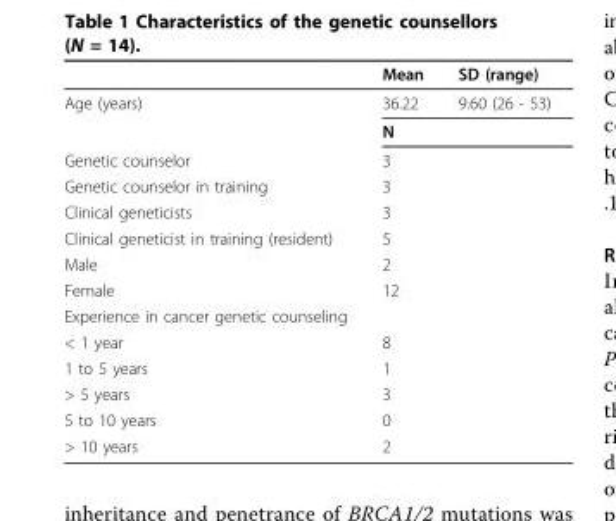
<table><thead><tr><td></td><td>Mean</td><td>SD (range)</td></tr></thead><tbody><tr><td rowspan="2">Age (years)</td><td>36.22</td><td>9.60 (26 - 53)</td></tr><tr><td>N</td><td></td></tr><tr><td>Genetic counselor</td><td>3</td><td></td></tr><tr><td>Genetic counselor in training</td><td>3</td><td></td></tr><tr><td>Clinical geneticists</td><td>3</td><td></td></tr><tr><td>Clinical geneticist in training (resident)</td><td>5</td><td></td></tr><tr><td>Male</td><td>2</td><td></td></tr><tr><td>Female</td><td>12</td><td></td></tr><tr><td colspan="3">Experience in cancer genetic counseling</td></tr><tr><td>&lt; 1 year</td><td>8</td><td></td></tr><tr><td>1 to 5 years</td><td>1</td><td></td></tr><tr><td>&gt; 5 years</td><td>3</td><td></td></tr><tr><td>5 to 10 years</td><td>0</td><td></td></tr><tr><td>&gt; 10 years</td><td>2</td><td></td></tr></tbody></table>